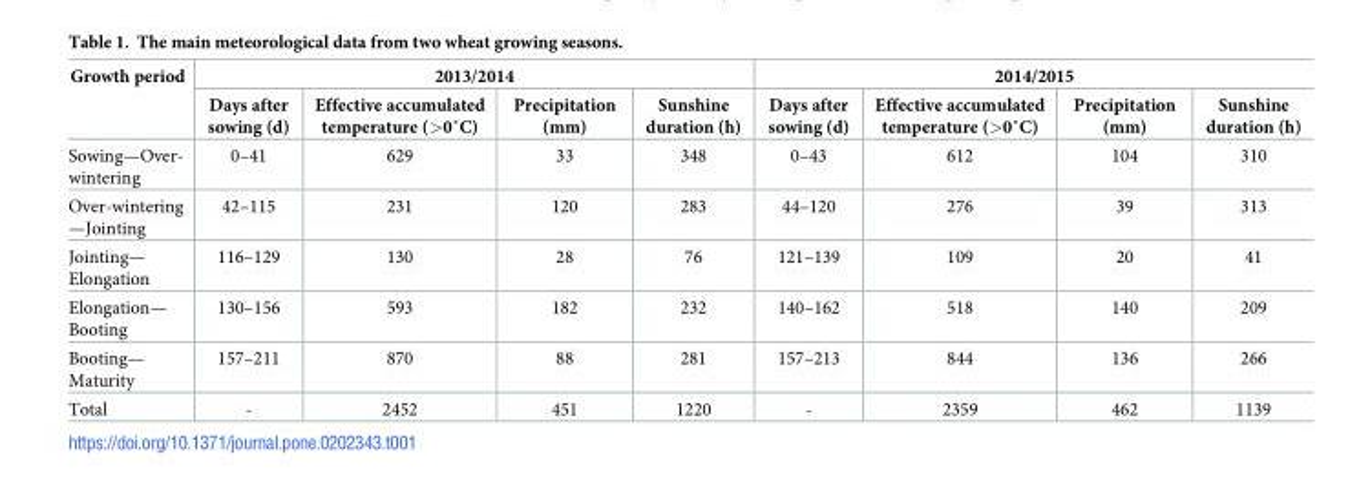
<table><thead><tr><td rowspan="2">Growth period</td><td colspan="4">2013/2014</td><td colspan="4">2014/2015</td></tr><tr><td>Days after sowing (d)</td><td>Effective accumulated temperature (&gt;0˚C)</td><td>Precipitation (mm)</td><td>Sunshine duration (h)</td><td>Days after sowing (d)</td><td>Effective accumulated temperature (&gt;0˚C)</td><td>Precipitation (mm)</td><td>Sunshine duration (h)</td></tr></thead><tbody><tr><td>Sowing—Over- wintering</td><td>0–41</td><td>629</td><td>33</td><td>348</td><td>0–43</td><td>612</td><td>104</td><td>310</td></tr><tr><td>Over-wintering —Jointing</td><td>42–115</td><td>231</td><td>120</td><td>283</td><td>44–120</td><td>276</td><td>39</td><td>313</td></tr><tr><td>Jointing— Elongation</td><td>116–129</td><td>130</td><td>28</td><td>76</td><td>121–139</td><td>109</td><td>20</td><td>41</td></tr><tr><td>Elongation— Booting</td><td>130–156</td><td>593</td><td>182</td><td>232</td><td>140–162</td><td>518</td><td>140</td><td>209</td></tr><tr><td>Booting— Maturity</td><td>157–211</td><td>870</td><td>88</td><td>281</td><td>157–213</td><td>844</td><td>136</td><td>266</td></tr><tr><td>Total</td><td>-</td><td>2452</td><td>451</td><td>1220</td><td>-</td><td>2359</td><td>462</td><td>1139</td></tr></tbody></table>